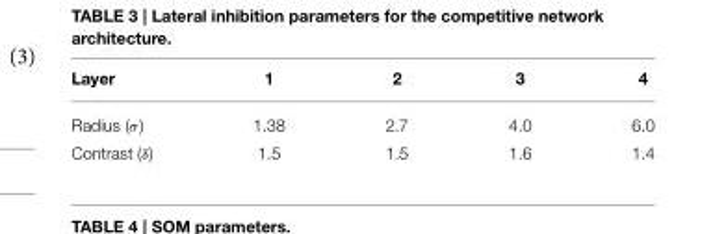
<table><thead><tr><td>Layer</td><td>1</td><td>2</td><td>3</td><td>4</td></tr></thead><tbody><tr><td>Radius (σ)</td><td>1.38</td><td>2.7</td><td>4.0</td><td>6.0</td></tr><tr><td>Contrast (δ)</td><td>1.5</td><td>1.5</td><td>1.6</td><td>1.4</td></tr></tbody></table>